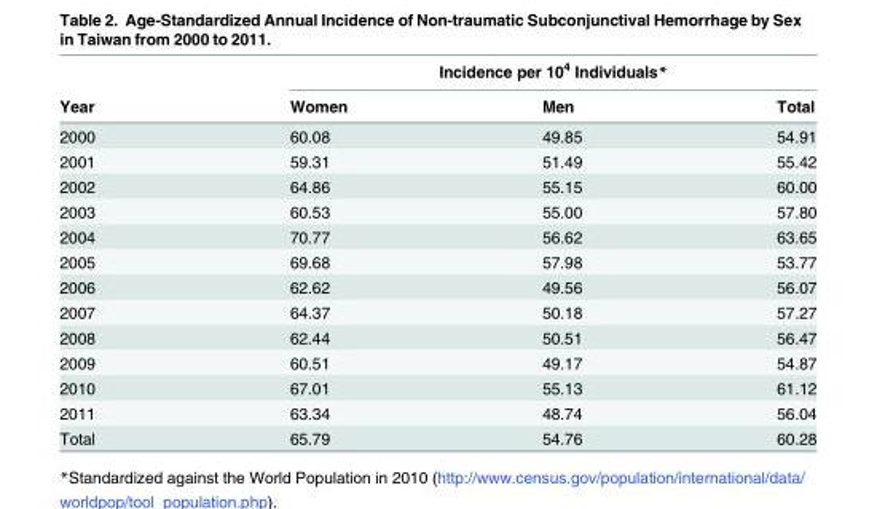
<table><thead><tr><td rowspan="2">Year</td><td colspan="3">Incidence per 10<sup>4</sup> Individuals*</td></tr><tr><td>Women</td><td>Men</td><td>Total</td></tr></thead><tbody><tr><td>2000</td><td>60.08</td><td>49.85</td><td>54.91</td></tr><tr><td>2001</td><td>59.31</td><td>51.49</td><td>55.42</td></tr><tr><td>2002</td><td>64.86</td><td>55.15</td><td>60.00</td></tr><tr><td>2003</td><td>60.53</td><td>55.00</td><td>57.80</td></tr><tr><td>2004</td><td>70.77</td><td>56.62</td><td>63.65</td></tr><tr><td>2005</td><td>69.68</td><td>57.98</td><td>53.77</td></tr><tr><td>2006</td><td>62.62</td><td>49.56</td><td>56.07</td></tr><tr><td>2007</td><td>64.37</td><td>50.18</td><td>57.27</td></tr><tr><td>2008</td><td>62.44</td><td>50.51</td><td>56.47</td></tr><tr><td>2009</td><td>60.51</td><td>49.17</td><td>54.87</td></tr><tr><td>2010</td><td>67.01</td><td>55.13</td><td>61.12</td></tr><tr><td>2011</td><td>63.34</td><td>48.74</td><td>56.04</td></tr><tr><td>Total</td><td>65.79</td><td>54.76</td><td>60.28</td></tr></tbody></table>